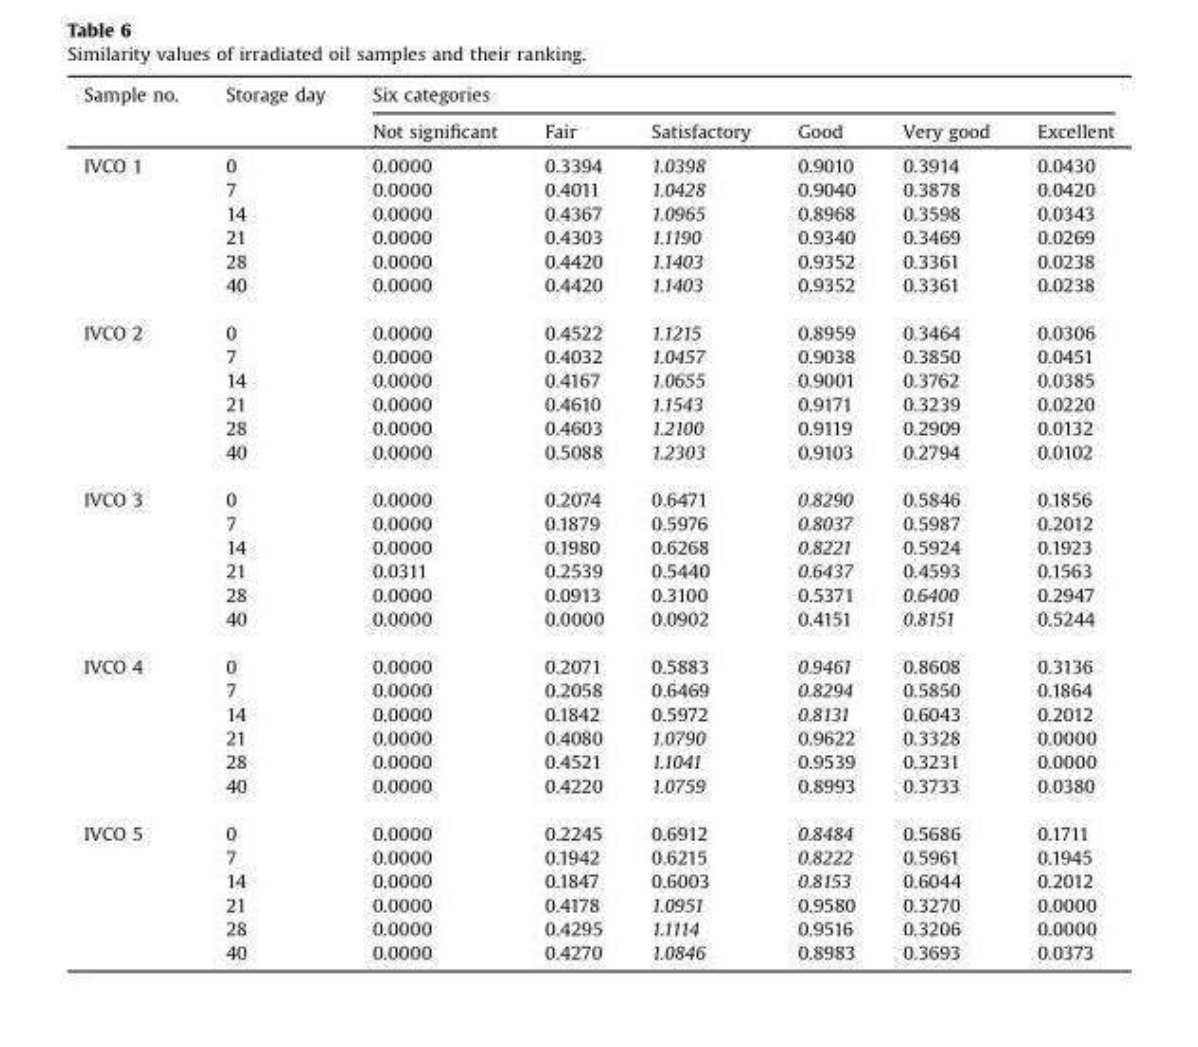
<table><thead><tr><td rowspan="2">Sample no.</td><td rowspan="2">Storage day</td><td colspan="6">Six categories</td></tr><tr><td>Not significant</td><td>Fair</td><td>Satisfactory</td><td>Good</td><td>Very good</td><td>Excellent</td></tr></thead><tbody><tr><td rowspan="6">IVCO 1</td><td>0</td><td>0.0000</td><td>0.3394</td><td>1.0398</td><td>0.9010</td><td>0.3914</td><td>0.0430</td></tr><tr><td>7</td><td>0.0000</td><td>0.4011</td><td>1.0428</td><td>0.9040</td><td>0.3878</td><td>0.0420</td></tr><tr><td>14</td><td>0.0000</td><td>0.4367</td><td>1.0965</td><td>0.8968</td><td>0.3598</td><td>0.0343</td></tr><tr><td>21</td><td>0.0000</td><td>0.4303</td><td>1.1190</td><td>0.9340</td><td>0.3469</td><td>0.0269</td></tr><tr><td>28</td><td>0.0000</td><td>0.4420</td><td>1.1403</td><td>0.9352</td><td>0.3361</td><td>0.0238</td></tr><tr><td>40</td><td>0.0000</td><td>0.4420</td><td>1.1403</td><td>0.9352</td><td>0.3361</td><td>0.0238</td></tr><tr><td rowspan="6">IVCO 2</td><td>0</td><td>0.0000</td><td>0.4522</td><td>1.1215</td><td>0.8959</td><td>0.3464</td><td>0.0306</td></tr><tr><td>7</td><td>0.0000</td><td>0.4032</td><td>1.0457</td><td>0.9038</td><td>0.3850</td><td>0.0451</td></tr><tr><td>14</td><td>0.0000</td><td>0.4167</td><td>1.0655</td><td>0.9001</td><td>0.3762</td><td>0.0385</td></tr><tr><td>21</td><td>0.0000</td><td>0.4610</td><td>1.1543</td><td>0.9171</td><td>0.3239</td><td>0.0220</td></tr><tr><td>28</td><td>0.0000</td><td>0.4603</td><td>1.2100</td><td>0.9119</td><td>0.2909</td><td>0.0132</td></tr><tr><td>40</td><td>0.0000</td><td>0.5088</td><td>1.2303</td><td>0.9103</td><td>0.2794</td><td>0.0102</td></tr><tr><td rowspan="6">IVCO 3</td><td>0</td><td>0.0000</td><td>0.2074</td><td>0.6471</td><td>0.8290</td><td>0.5846</td><td>0.1856</td></tr><tr><td>7</td><td>0.0000</td><td>0.1879</td><td>0.5976</td><td>0.8037</td><td>0.5987</td><td>0.2012</td></tr><tr><td>14</td><td>0.0000</td><td>0.1980</td><td>0.6268</td><td>0.8221</td><td>0.5924</td><td>0.1923</td></tr><tr><td>21</td><td>0.0311</td><td>0.2539</td><td>0.5440</td><td>0.6437</td><td>0.4593</td><td>0.1563</td></tr><tr><td>28</td><td>0.0000</td><td>0.0913</td><td>0.3100</td><td>0.5371</td><td>0.6400</td><td>0.2947</td></tr><tr><td>40</td><td>0.0000</td><td>0.0000</td><td>0.0902</td><td>0.4151</td><td>0.8151</td><td>0.5244</td></tr><tr><td rowspan="6">IVCO 4</td><td>0</td><td>0.0000</td><td>0.2071</td><td>0.5883</td><td>0.9461</td><td>0.8608</td><td>0.3136</td></tr><tr><td>7</td><td>0.0000</td><td>0.2058</td><td>0.6469</td><td>0.8294</td><td>0.5850</td><td>0.1864</td></tr><tr><td>14</td><td>0.0000</td><td>0.1842</td><td>0.5972</td><td>0.8131</td><td>0.6043</td><td>0.2012</td></tr><tr><td>21</td><td>0.0000</td><td>0.4080</td><td>1.0790</td><td>0.9622</td><td>0.3328</td><td>0.0000</td></tr><tr><td>28</td><td>0.0000</td><td>0.4521</td><td>1.1041</td><td>0.9539</td><td>0.3231</td><td>0.0000</td></tr><tr><td>40</td><td>0.0000</td><td>0.4220</td><td>1.0759</td><td>0.8993</td><td>0.3733</td><td>0.0380</td></tr><tr><td rowspan="6">IVCO 5</td><td>0</td><td>0.0000</td><td>0.2245</td><td>0.6912</td><td>0.8484</td><td>0.5686</td><td>0.1711</td></tr><tr><td>7</td><td>0.0000</td><td>0.1942</td><td>0.6215</td><td>0.8222</td><td>0.5961</td><td>0.1945</td></tr><tr><td>14</td><td>0.0000</td><td>0.1847</td><td>0.6003</td><td>0.8153</td><td>0.6044</td><td>0.2012</td></tr><tr><td>21</td><td>0.0000</td><td>0.4178</td><td>1.0951</td><td>0.9580</td><td>0.3270</td><td>0.0000</td></tr><tr><td>28</td><td>0.0000</td><td>0.4295</td><td>1.1114</td><td>0.9516</td><td>0.3206</td><td>0.0000</td></tr><tr><td>40</td><td>0.0000</td><td>0.4270</td><td>1.0846</td><td>0.8983</td><td>0.3693</td><td>0.0373</td></tr></tbody></table>